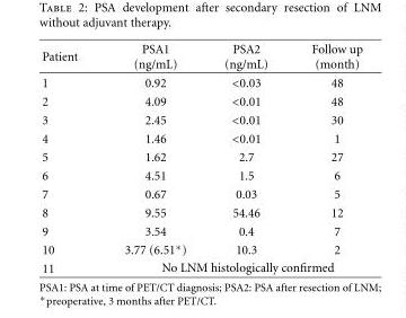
<table><thead><tr><td>Patient</td><td>PSA1 (ng/mL)</td><td>PSA2 (ng/mL)</td><td>Follow up (month)</td></tr></thead><tbody><tr><td>1</td><td>0.92</td><td>&lt;0.03</td><td>48</td></tr><tr><td>2</td><td>4.09</td><td>&lt;0.01</td><td>48</td></tr><tr><td>3</td><td>2.45</td><td>&lt;0.01</td><td>30</td></tr><tr><td>4</td><td>1.46</td><td>&lt;0.01</td><td>1</td></tr><tr><td>5</td><td>1.62</td><td>2.7</td><td>27</td></tr><tr><td>6</td><td>4.51</td><td>1.5</td><td>6</td></tr><tr><td>7</td><td>0.67</td><td>0.03</td><td>5</td></tr><tr><td>8</td><td>9.55</td><td>54.46</td><td>12</td></tr><tr><td>9</td><td>3.54</td><td>0.4</td><td>7</td></tr><tr><td>10</td><td>3.77 (6.51∗)</td><td>10.3</td><td>2</td></tr><tr><td>11</td><td colspan="3">No LNM histologically confirmed</td></tr></tbody></table>